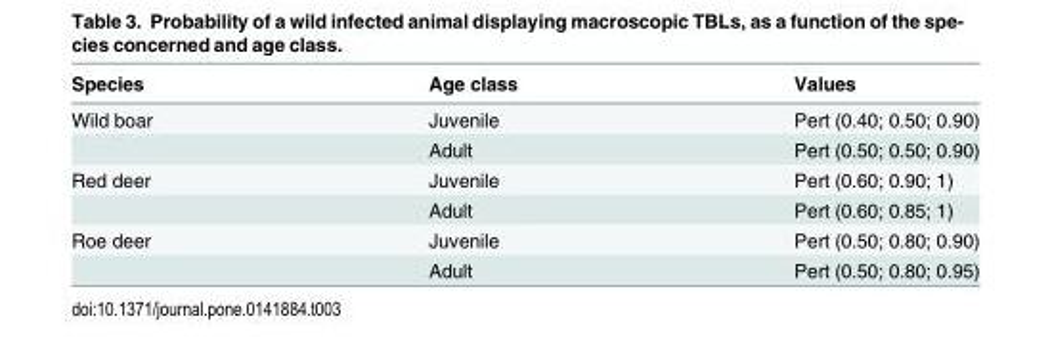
<table><thead><tr><td>Species</td><td>Age class</td><td>Values</td></tr></thead><tbody><tr><td rowspan="2">Wild boar</td><td>Juvenile</td><td>Pert (0.40; 0.50; 0.90)</td></tr><tr><td>Adult</td><td>Pert (0.50; 0.50; 0.90)</td></tr><tr><td rowspan="2">Red deer</td><td>Juvenile</td><td>Pert (0.60; 0.90; 1)</td></tr><tr><td>Adult</td><td>Pert (0.60; 0.85; 1)</td></tr><tr><td rowspan="2">Roe deer</td><td>Juvenile</td><td>Pert (0.50; 0.80; 0.90)</td></tr><tr><td>Adult</td><td>Pert (0.50; 0.80; 0.95)</td></tr></tbody></table>